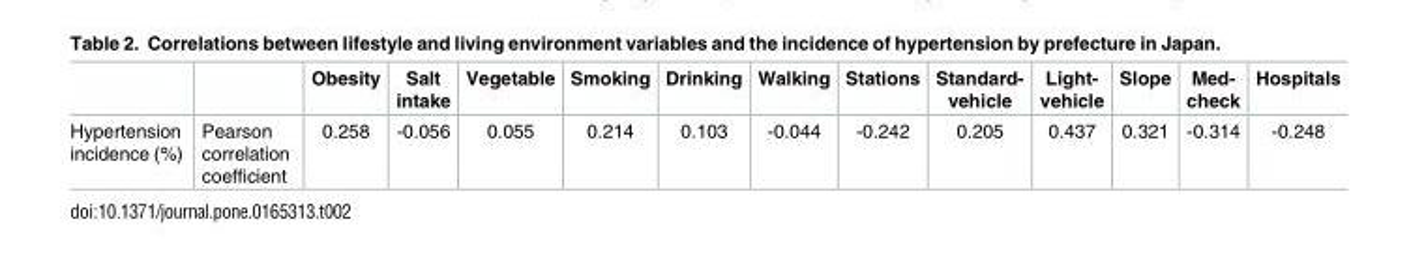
<table><thead><tr><td></td><td></td><td>Obesity</td><td>Salt intake</td><td>Vegetable</td><td>Smoking</td><td>Drinking</td><td>Walking</td><td>Stations</td><td>Standard- vehicle</td><td>Light- vehicle</td><td>Slope</td><td>Med- check</td><td>Hospitals</td></tr></thead><tbody><tr><td>Hypertension incidence (%)</td><td>Pearson correlation coefficient</td><td>0.258</td><td>-0.056</td><td>0.055</td><td>0.214</td><td>0.103</td><td>-0.044</td><td>-0.242</td><td>0.205</td><td>0.437</td><td>0.321</td><td>-0.314</td><td>-0.248</td></tr></tbody></table>